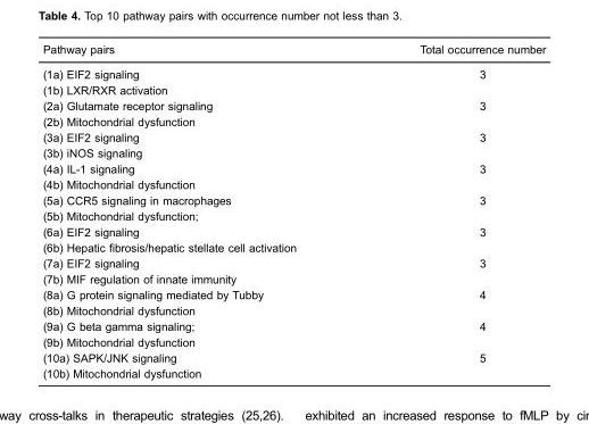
<table><thead><tr><td>Pathway pairs</td><td>Total occurrence number</td></tr></thead><tbody><tr><td>(1a) EIF2 signaling (1b) LXR/RXR activation</td><td>3</td></tr><tr><td>(2a) Glutamate receptor signaling (2b) Mitochondrial dysfunction</td><td>3</td></tr><tr><td>(3a) EIF2 signaling (3b) iNOS signaling</td><td>3</td></tr><tr><td>(4a) IL-1 signaling (4b) Mitochondrial dysfunction</td><td>3</td></tr><tr><td>(5a) CCR5 signaling in macrophages (5b) Mitochondrial dysfunction;</td><td>3</td></tr><tr><td>(6a) EIF2 signaling (6b) Hepatic fibrosis/hepatic stellate cell activation</td><td>3</td></tr><tr><td>(7a) EIF2 signaling (7b) MIF regulation of innate immunity</td><td>3</td></tr><tr><td>(8a) G protein signaling mediated by Tubby (8b) Mitochondrial dysfunction</td><td>4</td></tr><tr><td>(9a) G beta gamma signaling; (9b) Mitochondrial dysfunction</td><td>4</td></tr><tr><td>(10a) SAPK/JNK signaling (10b) Mitochondrial dysfunction</td><td>5</td></tr></tbody></table>